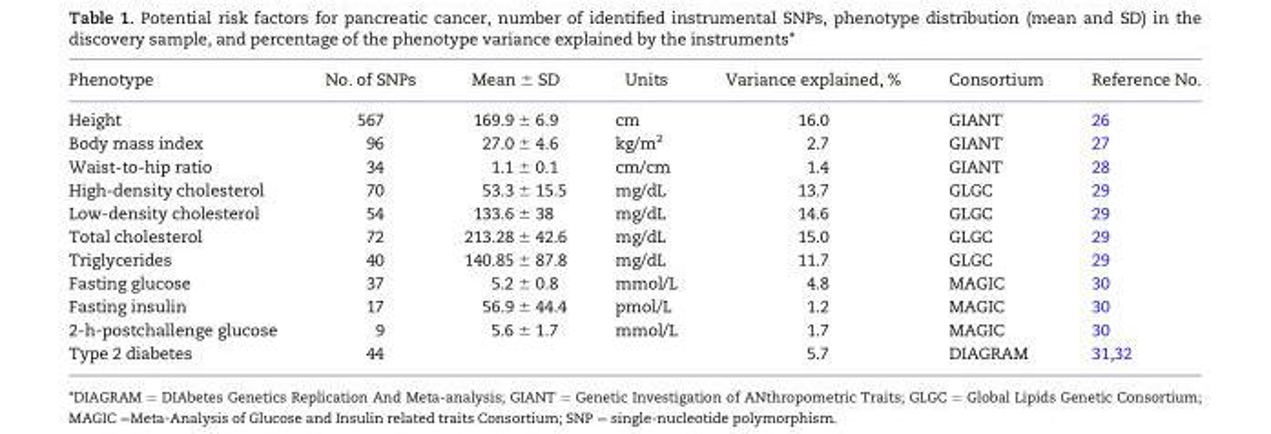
<table><thead><tr><td>Phenotype</td><td>No. of SNPs</td><td>Mean ± SD</td><td>Units</td><td>Variance explained, %</td><td>Consortium</td><td>Reference No.</td></tr></thead><tbody><tr><td>Height</td><td>567</td><td>169.9 ± 6.9</td><td>cm</td><td>16.0</td><td>GIANT</td><td>26</td></tr><tr><td>Body mass index</td><td>96</td><td>27.0 ± 4.6</td><td>kg/m<sup>2</sup></td><td>2.7</td><td>GIANT</td><td>27</td></tr><tr><td>Waist-to-hip ratio</td><td>34</td><td>1.1 ± 0.1</td><td>cm/cm</td><td>1.4</td><td>GIANT</td><td>28</td></tr><tr><td>High-density cholesterol</td><td>70</td><td>53.3 ± 15.5</td><td>mg/dL</td><td>13.7</td><td>GLGC</td><td>29</td></tr><tr><td>Low-density cholesterol</td><td>54</td><td>133.6 ± 38</td><td>mg/dL</td><td>14.6</td><td>GLGC</td><td>29</td></tr><tr><td>Total cholesterol</td><td>72</td><td>213.28 ± 42.6</td><td>mg/dL</td><td>15.0</td><td>GLGC</td><td>29</td></tr><tr><td>Triglycerides</td><td>40</td><td>140.85 ± 87.8</td><td>mg/dL</td><td>11.7</td><td>GLGC</td><td>29</td></tr><tr><td>Fasting glucose</td><td>37</td><td>5.2 ± 0.8</td><td>mmol/L</td><td>4.8</td><td>MAGIC</td><td>30</td></tr><tr><td>Fasting insulin</td><td>17</td><td>56.9 ± 44.4</td><td>pmol/L</td><td>1.2</td><td>MAGIC</td><td>30</td></tr><tr><td>2-h-postchallenge glucose</td><td>9</td><td>5.6 ± 1.7</td><td>mmol/L</td><td>1.7</td><td>MAGIC</td><td>30</td></tr><tr><td>Type 2 diabetes</td><td>44</td><td></td><td></td><td>5.7</td><td>DIAGRAM</td><td>31,32</td></tr></tbody></table>